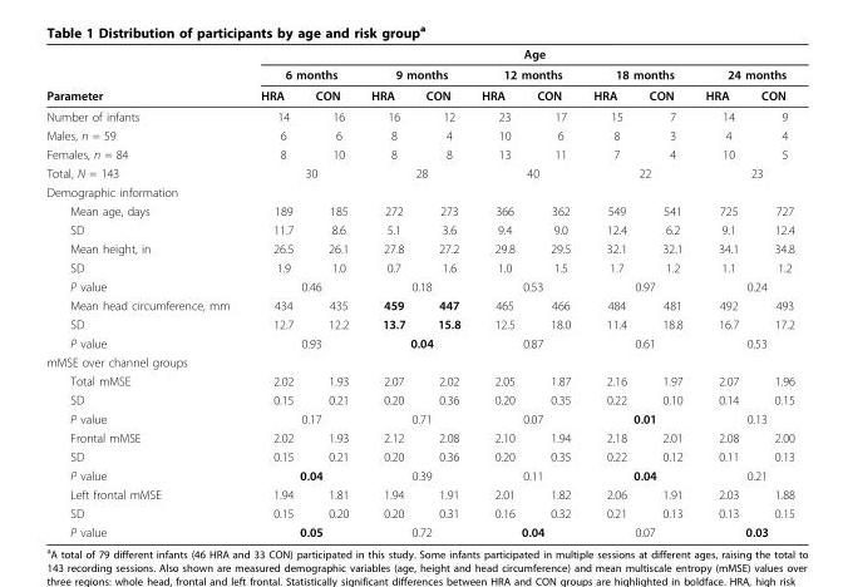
<table><thead><tr><td rowspan="3">Parameter</td><td colspan="10">Age</td></tr><tr><td colspan="2">6 months</td><td colspan="2">9 months</td><td colspan="2">12 months</td><td colspan="2">18 months</td><td colspan="2">24 months</td></tr><tr><td>HRA</td><td>CON</td><td>HRA</td><td>CON</td><td>HRA</td><td>CON</td><td>HRA</td><td>CON</td><td>HRA</td><td>CON</td></tr></thead><tbody><tr><td>Number of infants</td><td>14</td><td>16</td><td>16</td><td>12</td><td>23</td><td>17</td><td>15</td><td>7</td><td>14</td><td>9</td></tr><tr><td>Males, n = 59</td><td>6</td><td>6</td><td>8</td><td>4</td><td>10</td><td>6</td><td>8</td><td>3</td><td>4</td><td>4</td></tr><tr><td>Females, n = 84</td><td>8</td><td>10</td><td>8</td><td>8</td><td>13</td><td>11</td><td>7</td><td>4</td><td>10</td><td>5</td></tr><tr><td>Total, N = 143</td><td colspan="2">30</td><td colspan="2">28</td><td colspan="2">40</td><td colspan="2">22</td><td colspan="2">23</td></tr><tr><td colspan="11">Demographic information</td></tr><tr><td>Mean age, days</td><td>189</td><td>185</td><td>272</td><td>273</td><td>366</td><td>362</td><td>549</td><td>541</td><td>725</td><td>727</td></tr><tr><td>SD</td><td>11.7</td><td>8.6</td><td>5.1</td><td>3.6</td><td>9.4</td><td>9.0</td><td>12.4</td><td>6.2</td><td>9.1</td><td>12.4</td></tr><tr><td>Mean height, in</td><td>26.5</td><td>26.1</td><td>27.8</td><td>27.2</td><td>29.8</td><td>29.5</td><td>32.1</td><td>32.1</td><td>34.1</td><td>34.8</td></tr><tr><td>SD</td><td>1.9</td><td>1.0</td><td>0.7</td><td>1.6</td><td>1.0</td><td>1.5</td><td>1.7</td><td>1.2</td><td>1.1</td><td>1.2</td></tr><tr><td>P value</td><td colspan="2">0.46</td><td colspan="2">0.18</td><td colspan="2">0.53</td><td colspan="2">0.97</td><td colspan="2">0.24</td></tr><tr><td>Mean head circumference, mm</td><td>434</td><td>435</td><td>459</td><td>447</td><td>465</td><td>466</td><td>484</td><td>481</td><td>492</td><td>493</td></tr><tr><td>SD</td><td>12.7</td><td>12.2</td><td>13.7</td><td>15.8</td><td>12.5</td><td>18.0</td><td>11.4</td><td>18.8</td><td>16.7</td><td>17.2</td></tr><tr><td>P value</td><td colspan="2">0.93</td><td colspan="2">0.04</td><td colspan="2">0.87</td><td colspan="2">0.61</td><td colspan="2">0.53</td></tr><tr><td colspan="11">mMSE over channel groups</td></tr><tr><td>Total mMSE</td><td>2.02</td><td>1.93</td><td>2.07</td><td>2.02</td><td>2.05</td><td>1.87</td><td>2.16</td><td>1.97</td><td>2.07</td><td>1.96</td></tr><tr><td>SD</td><td>0.15</td><td>0.21</td><td>0.20</td><td>0.36</td><td>0.20</td><td>0.35</td><td>0.22</td><td>0.10</td><td>0.14</td><td>0.15</td></tr><tr><td>P value</td><td colspan="2">0.17</td><td colspan="2">0.71</td><td colspan="2">0.07</td><td colspan="2">0.01</td><td colspan="2">0.13</td></tr><tr><td>Frontal mMSE</td><td>2.02</td><td>1.93</td><td>2.12</td><td>2.08</td><td>2.10</td><td>1.94</td><td>2.18</td><td>2.01</td><td>2.08</td><td>2.00</td></tr><tr><td>SD</td><td>0.15</td><td>0.21</td><td>0.20</td><td>0.36</td><td>0.20</td><td>0.35</td><td>0.22</td><td>0.12</td><td>0.11</td><td>0.13</td></tr><tr><td>P value</td><td colspan="2">0.04</td><td colspan="2">0.39</td><td colspan="2">0.11</td><td colspan="2">0.04</td><td colspan="2">0.21</td></tr><tr><td>Left frontal mMSE</td><td>1.94</td><td>1.81</td><td>1.94</td><td>1.91</td><td>2.01</td><td>1.82</td><td>2.06</td><td>1.91</td><td>2.03</td><td>1.88</td></tr><tr><td>SD</td><td>0.15</td><td>0.20</td><td>0.20</td><td>0.31</td><td>0.16</td><td>0.32</td><td>0.21</td><td>0.13</td><td>0.13</td><td>0.15</td></tr><tr><td>P value</td><td colspan="2">0.05</td><td colspan="2">0.72</td><td colspan="2">0.04</td><td colspan="2">0.07</td><td colspan="2">0.03</td></tr></tbody></table>